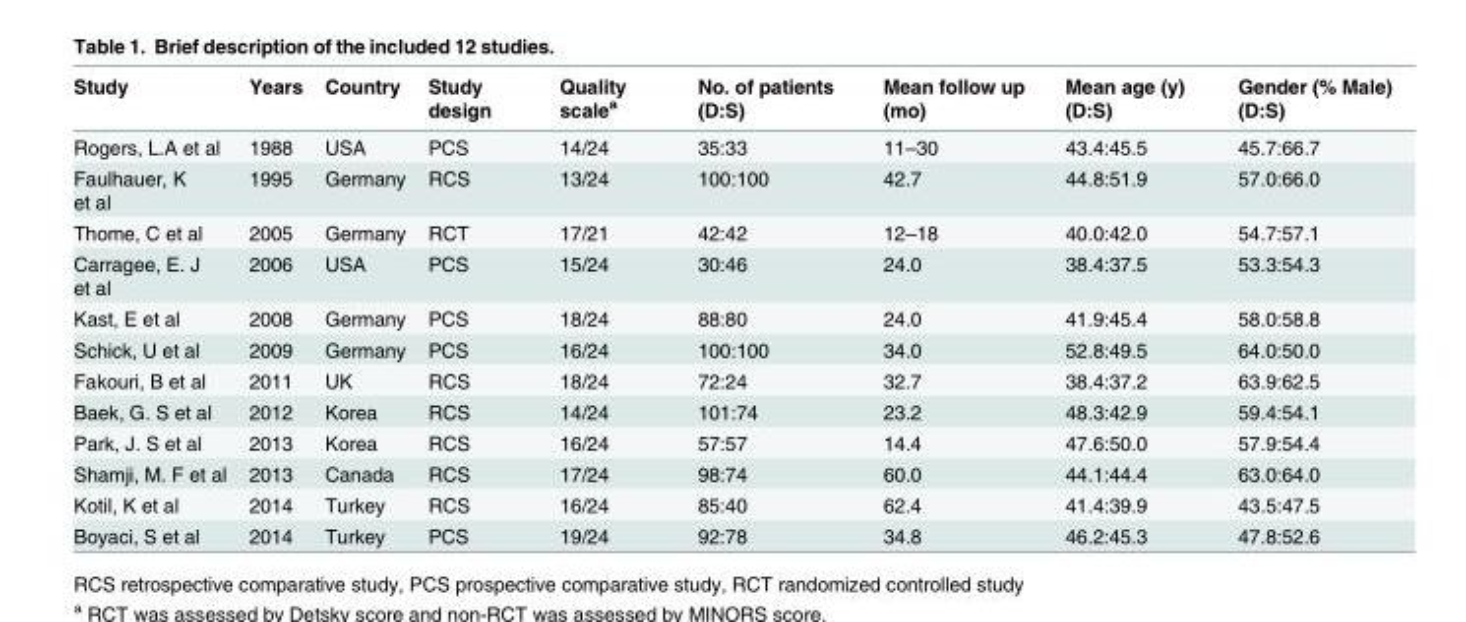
<table><thead><tr><td>Study</td><td>Years</td><td>Country</td><td>Study design</td><td>Quality scale<sup>a</sup></td><td>No. of patients (D:S)</td><td>Mean follow up (mo)</td><td>Mean age (y) (D:S)</td><td>Gender (% Male) (D:S)</td></tr></thead><tbody><tr><td>Rogers, L.A et al</td><td>1988</td><td>USA</td><td>PCS</td><td>14/24</td><td>35:33</td><td>11–30</td><td>43.4:45.5</td><td>45.7:66.7</td></tr><tr><td>Faulhauer, K et al</td><td>1995</td><td>Germany</td><td>RCS</td><td>13/24</td><td>100:100</td><td>42.7</td><td>44.8:51.9</td><td>57.0:66.0</td></tr><tr><td>Thome, C et al</td><td>2005</td><td>Germany</td><td>RCT</td><td>17/21</td><td>42:42</td><td>12–18</td><td>40.0:42.0</td><td>54.7:57.1</td></tr><tr><td>Carragee, E. J et al</td><td>2006</td><td>USA</td><td>PCS</td><td>15/24</td><td>30:46</td><td>24.0</td><td>38.4:37.5</td><td>53.3:54.3</td></tr><tr><td>Kast, E et al</td><td>2008</td><td>Germany</td><td>PCS</td><td>18/24</td><td>88:80</td><td>24.0</td><td>41.9:45.4</td><td>58.0:58.8</td></tr><tr><td>Schick, U et al</td><td>2009</td><td>Germany</td><td>PCS</td><td>16/24</td><td>100:100</td><td>34.0</td><td>52.8:49.5</td><td>64.0:50.0</td></tr><tr><td>Fakouri, B et al</td><td>2011</td><td>UK</td><td>RCS</td><td>18/24</td><td>72:24</td><td>32.7</td><td>38.4:37.2</td><td>63.9:62.5</td></tr><tr><td>Baek, G. S et al</td><td>2012</td><td>Korea</td><td>RCS</td><td>14/24</td><td>101:74</td><td>23.2</td><td>48.3:42.9</td><td>59.4:54.1</td></tr><tr><td>Park, J. S et al</td><td>2013</td><td>Korea</td><td>RCS</td><td>16/24</td><td>57:57</td><td>14.4</td><td>47.6:50.0</td><td>57.9:54.4</td></tr><tr><td>Shamji, M. F et al</td><td>2013</td><td>Canada</td><td>RCS</td><td>17/24</td><td>98:74</td><td>60.0</td><td>44.1:44.4</td><td>63.0:64.0</td></tr><tr><td>Kotil, K et al</td><td>2014</td><td>Turkey</td><td>RCS</td><td>16/24</td><td>85:40</td><td>62.4</td><td>41.4:39.9</td><td>43.5:47.5</td></tr><tr><td>Boyaci, S et al</td><td>2014</td><td>Turkey</td><td>PCS</td><td>19/24</td><td>92:78</td><td>34.8</td><td>46.2:45.3</td><td>47.8:52.6</td></tr></tbody></table>